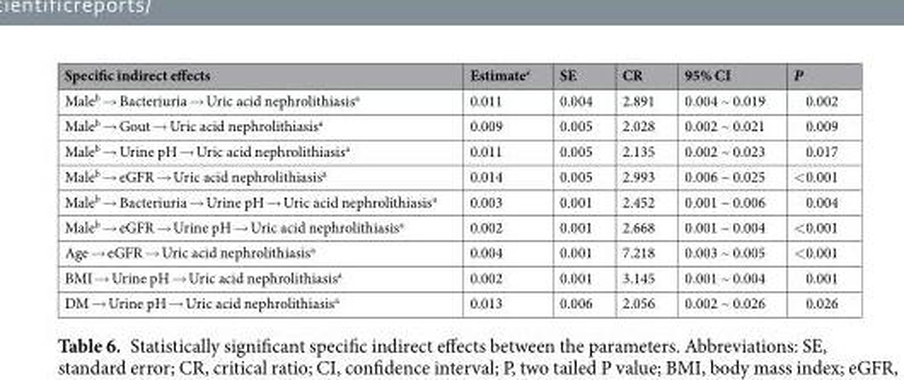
<table><thead><tr><td>Specific indirect effects</td><td>Estimate<sup>c</sup></td><td>SE</td><td>CR</td><td>95% CI</td><td>P</td></tr></thead><tbody><tr><td>Male<sup>b</sup> → Bacteriuria → Uric acid nephrolithiasis<sup>a</sup></td><td>0.011</td><td>0.004</td><td>2.891</td><td>0.004 ~ 0.019</td><td>0.002</td></tr><tr><td>Male<sup>b</sup> → Gout → Uric acid nephrolithiasis<sup>a</sup></td><td>0.009</td><td>0.005</td><td>2.028</td><td>0.002 ~ 0.021</td><td>0.009</td></tr><tr><td>Male<sup>b</sup> → Urine pH → Uric acid nephrolithiasis<sup>a</sup></td><td>0.011</td><td>0.005</td><td>2.135</td><td>0.002 ~ 0.023</td><td>0.017</td></tr><tr><td>Male<sup>b</sup> → eGFR → Uric acid nephrolithiasis<sup>a</sup></td><td>0.014</td><td>0.005</td><td>2.993</td><td>0.006 ~ 0.025</td><td>&lt;0.001</td></tr><tr><td>Male<sup>b</sup> → Bacteriuria → Urine pH → Uric acid nephrolithiasis<sup>a</sup></td><td>0.003</td><td>0.001</td><td>2.452</td><td>0.001 ~ 0.006</td><td>0.004</td></tr><tr><td>Male<sup>b</sup> → eGFR → Urine pH → Uric acid nephrolithiasis<sup>a</sup></td><td>0.002</td><td>0.001</td><td>2.668</td><td>0.001 ~ 0.004</td><td>&lt;0.001</td></tr><tr><td>Age → eGFR → Uric acid nephrolithiasis<sup>a</sup></td><td>0.004</td><td>0.001</td><td>7.218</td><td>0.003 ~ 0.005</td><td>&lt;0.001</td></tr><tr><td>BMI → Urine pH → Uric acid nephrolithiasis<sup>a</sup></td><td>0.002</td><td>0.001</td><td>3.145</td><td>0.001 ~ 0.004</td><td>0.001</td></tr><tr><td>DM → Urine pH → Uric acid nephrolithiasis<sup>a</sup></td><td>0.013</td><td>0.006</td><td>2.056</td><td>0.002 ~ 0.026</td><td>0.026</td></tr></tbody></table>